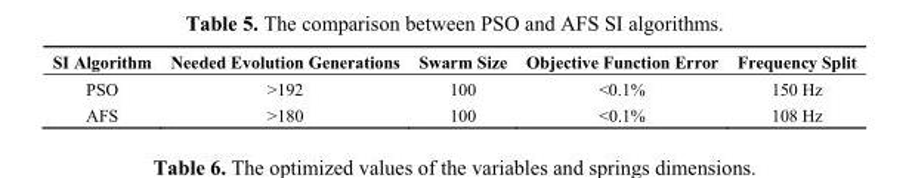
<table><thead><tr><td>SI Algorithm</td><td>Needed Evolution Generations</td><td>Swarm Size</td><td>Objective Function Error</td><td>Frequency Split</td></tr></thead><tbody><tr><td>PSO</td><td>&gt;192</td><td>100</td><td>&lt;0.1%</td><td>150 Hz</td></tr><tr><td>AFS</td><td>&gt;180</td><td>100</td><td>&lt;0.1%</td><td>108 Hz</td></tr></tbody></table>